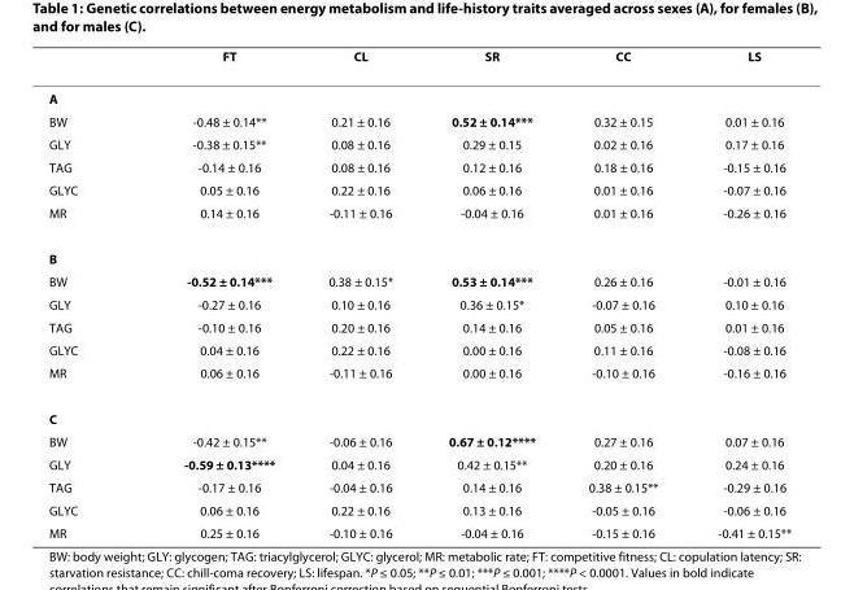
<table><thead><tr><td></td><td>FT</td><td>CL</td><td>SR</td><td>CC</td><td>LS</td></tr></thead><tbody><tr><td colspan="6">A</td></tr><tr><td>BW</td><td>-0.48 ± 0.14**</td><td>0.21 ± 0.16</td><td>0.52 ± 0.14***</td><td>0.32 ± 0.15</td><td>0.01 ± 0.16</td></tr><tr><td>GLY</td><td>-0.38 ± 0.15**</td><td>0.08 ± 0.16</td><td>0.29 ± 0.15</td><td>0.02 ± 0.16</td><td>0.17 ± 0.16</td></tr><tr><td>TAG</td><td>-0.14 ± 0.16</td><td>0.08 ± 0.16</td><td>0.12 ± 0.16</td><td>0.18 ± 0.16</td><td>-0.15 ± 0.16</td></tr><tr><td>GLYC</td><td>0.05 ± 0.16</td><td>0.22 ± 0.16</td><td>0.06 ± 0.16</td><td>0.01 ± 0.16</td><td>-0.07 ± 0.16</td></tr><tr><td>MR</td><td>0.14 ± 0.16</td><td>-0.11 ± 0.16</td><td>-0.04 ± 0.16</td><td>0.01 ± 0.16</td><td>-0.26 ± 0.16</td></tr><tr><td colspan="6">B</td></tr><tr><td>BW</td><td>-0.52 ± 0.14***</td><td>0.38 ± 0.15*</td><td>0.53 ± 0.14***</td><td>0.26 ± 0.16</td><td>-0.01 ± 0.16</td></tr><tr><td>GLY</td><td>-0.27 ± 0.16</td><td>0.10 ± 0.16</td><td>0.36 ± 0.15*</td><td>-0.07 ± 0.16</td><td>0.10 ± 0.16</td></tr><tr><td>TAG</td><td>-0.10 ± 0.16</td><td>0.20 ± 0.16</td><td>0.14 ± 0.16</td><td>0.05 ± 0.16</td><td>0.01 ± 0.16</td></tr><tr><td>GLYC</td><td>0.04 ± 0.16</td><td>0.22 ± 0.16</td><td>0.00 ± 0.16</td><td>0.11 ± 0.16</td><td>-0.08 ± 0.16</td></tr><tr><td>MR</td><td>0.06 ± 0.16</td><td>-0.11 ± 0.16</td><td>0.00 ± 0.16</td><td>-0.10 ± 0.16</td><td>-0.16 ± 0.16</td></tr><tr><td colspan="6">C</td></tr><tr><td>BW</td><td>-0.42 ± 0.15**</td><td>-0.06 ± 0.16</td><td>0.67 ± 0.12****</td><td>0.27 ± 0.16</td><td>0.07 ± 0.16</td></tr><tr><td>GLY</td><td>-0.59 ± 0.13****</td><td>0.04 ± 0.16</td><td>0.42 ± 0.15**</td><td>0.20 ± 0.16</td><td>0.24 ± 0.16</td></tr><tr><td>TAG</td><td>-0.17 ± 0.16</td><td>-0.04 ± 0.16</td><td>0.14 ± 0.16</td><td>0.38 ± 0.15**</td><td>-0.29 ± 0.16</td></tr><tr><td>GLYC</td><td>0.06 ± 0.16</td><td>0.22 ± 0.16</td><td>0.13 ± 0.16</td><td>-0.05 ± 0.16</td><td>-0.06 ± 0.16</td></tr><tr><td>MR</td><td>0.25 ± 0.16</td><td>-0.10 ± 0.16</td><td>-0.04 ± 0.16</td><td>-0.15 ± 0.16</td><td>-0.41 ± 0.15**</td></tr></tbody></table>